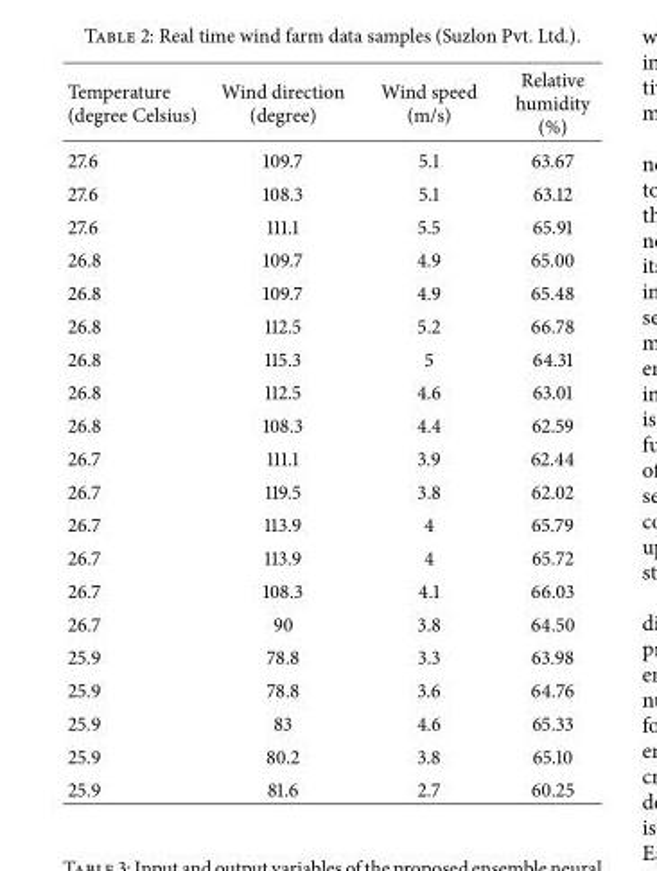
<table><thead><tr><td>Temperature (degree Celsius)</td><td>Wind direction (degree)</td><td>Wind speed (m/s)</td><td>Relative humidity (%)</td></tr></thead><tbody><tr><td>27.6</td><td>109.7</td><td>5.1</td><td>63.67</td></tr><tr><td>27.6</td><td>108.3</td><td>5.1</td><td>63.12</td></tr><tr><td>27.6</td><td>111.1</td><td>5.5</td><td>65.91</td></tr><tr><td>26.8</td><td>109.7</td><td>4.9</td><td>65.00</td></tr><tr><td>26.8</td><td>109.7</td><td>4.9</td><td>65.48</td></tr><tr><td>26.8</td><td>112.5</td><td>5.2</td><td>66.78</td></tr><tr><td>26.8</td><td>115.3</td><td>5</td><td>64.31</td></tr><tr><td>26.8</td><td>112.5</td><td>4.6</td><td>63.01</td></tr><tr><td>26.8</td><td>108.3</td><td>4.4</td><td>62.59</td></tr><tr><td>26.7</td><td>111.1</td><td>3.9</td><td>62.44</td></tr><tr><td>26.7</td><td>119.5</td><td>3.8</td><td>62.02</td></tr><tr><td>26.7</td><td>113.9</td><td>4</td><td>65.79</td></tr><tr><td>26.7</td><td>113.9</td><td>4</td><td>65.72</td></tr><tr><td>26.7</td><td>108.3</td><td>4.1</td><td>66.03</td></tr><tr><td>26.7</td><td>90</td><td>3.8</td><td>64.50</td></tr><tr><td>25.9</td><td>78.8</td><td>3.3</td><td>63.98</td></tr><tr><td>25.9</td><td>78.8</td><td>3.6</td><td>64.76</td></tr><tr><td>25.9</td><td>83</td><td>4.6</td><td>65.33</td></tr><tr><td>25.9</td><td>80.2</td><td>3.8</td><td>65.10</td></tr><tr><td>25.9</td><td>81.6</td><td>2.7</td><td>60.25</td></tr></tbody></table>